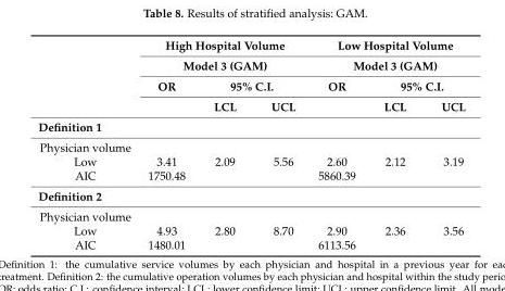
<table><thead><tr><td rowspan="4"></td><td rowspan="2" colspan="3">High Hospital Volume Model 3 (GAM)</td><td rowspan="2" colspan="3">Low Hospital Volume Model 3 (GAM)</td></tr><tr></tr><tr><td rowspan="2">OR</td><td colspan="2">95% C.I.</td><td rowspan="2">OR</td><td colspan="2">95% C.I.</td></tr><tr><td>LCL</td><td>UCL</td><td>LCL</td><td>UCL</td></tr></thead><tbody><tr><td colspan="7">Definition 1</td></tr><tr><td colspan="7">Physician volume</td></tr><tr><td>Low</td><td>3.41</td><td>2.09</td><td>5.56</td><td>2.60</td><td>2.12</td><td>3.19</td></tr><tr><td>AIC</td><td>1750.48</td><td></td><td></td><td>5860.39</td><td></td><td></td></tr><tr><td colspan="7">Definition 2</td></tr><tr><td colspan="7">Physician volume</td></tr><tr><td>Low</td><td>4.93</td><td>2.80</td><td>8.70</td><td>2.90</td><td>2.36</td><td>3.56</td></tr><tr><td>AIC</td><td>1480.01</td><td></td><td></td><td>6113.56</td><td></td><td></td></tr></tbody></table>